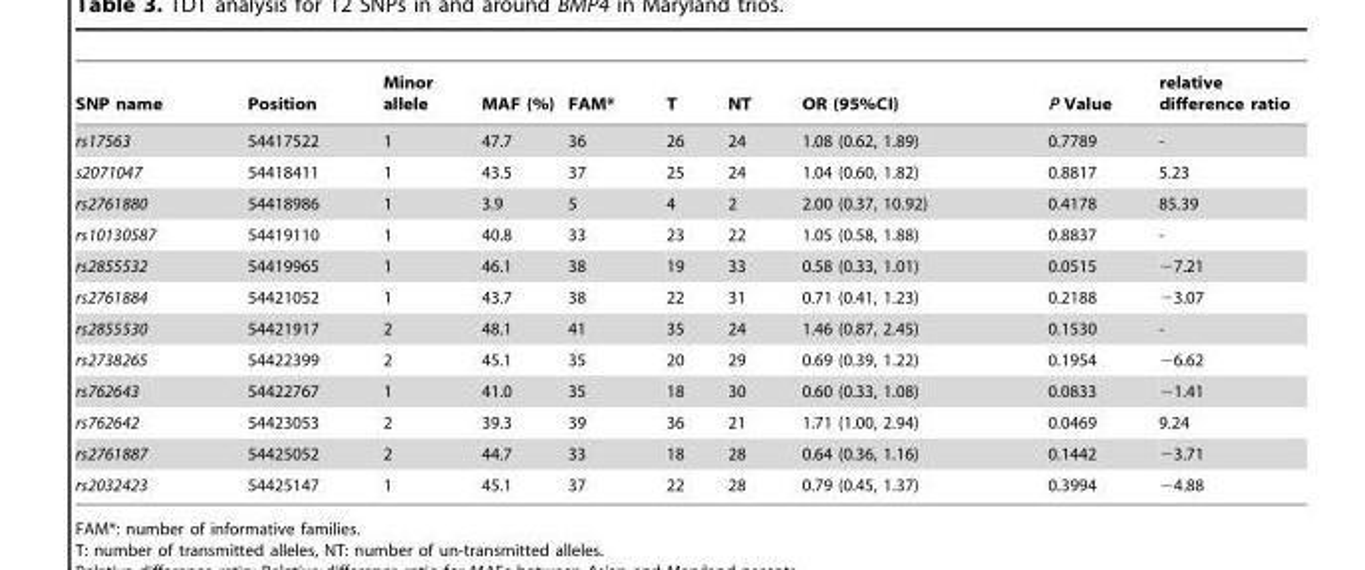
<table><thead><tr><td>SNP name</td><td>Position</td><td>Minor allele</td><td>MAF (%)</td><td>FAM*</td><td>T</td><td>NT</td><td>OR (95%CI)</td><td>P Value</td><td>relative difference ratio</td></tr></thead><tbody><tr><td>rs17563</td><td>54417522</td><td>1</td><td>47.7</td><td>36</td><td>26</td><td>24</td><td>1.08 (0.62, 1.89)</td><td>0.7789</td><td>-</td></tr><tr><td>s2071047</td><td>54418411</td><td>1</td><td>43.5</td><td>37</td><td>25</td><td>24</td><td>1.04 (0.60, 1.82)</td><td>0.8817</td><td>5.23</td></tr><tr><td>rs2761880</td><td>54418986</td><td>1</td><td>3.9</td><td>5</td><td>4</td><td>2</td><td>2.00 (0.37, 10.92)</td><td>0.4178</td><td>85.39</td></tr><tr><td>rs10130587</td><td>54419110</td><td>1</td><td>40.8</td><td>33</td><td>23</td><td>22</td><td>1.05 (0.58, 1.88)</td><td>0.8837</td><td>-</td></tr><tr><td>rs2855532</td><td>54419965</td><td>1</td><td>46.1</td><td>38</td><td>19</td><td>33</td><td>0.58 (0.33, 1.01)</td><td>0.0515</td><td>−7.21</td></tr><tr><td>rs2761884</td><td>54421052</td><td>1</td><td>43.7</td><td>38</td><td>22</td><td>31</td><td>0.71 (0.41, 1.23)</td><td>0.2188</td><td>−3.07</td></tr><tr><td>rs2855530</td><td>54421917</td><td>2</td><td>48.1</td><td>41</td><td>35</td><td>24</td><td>1.46 (0.87, 2.45)</td><td>0.1530</td><td>-</td></tr><tr><td>rs2738265</td><td>54422399</td><td>2</td><td>45.1</td><td>35</td><td>20</td><td>29</td><td>0.69 (0.39, 1.22)</td><td>0.1954</td><td>−6.62</td></tr><tr><td>rs762643</td><td>54422767</td><td>1</td><td>41.0</td><td>35</td><td>18</td><td>30</td><td>0.60 (0.33, 1.08)</td><td>0.0833</td><td>−1.41</td></tr><tr><td>rs762642</td><td>54423053</td><td>2</td><td>39.3</td><td>39</td><td>36</td><td>21</td><td>1.71 (1.00, 2.94)</td><td>0.0469</td><td>9.24</td></tr><tr><td>rs2761887</td><td>54425052</td><td>2</td><td>44.7</td><td>33</td><td>18</td><td>28</td><td>0.64 (0.36, 1.16)</td><td>0.1442</td><td>−3.71</td></tr><tr><td>rs2032423</td><td>54425147</td><td>1</td><td>45.1</td><td>37</td><td>22</td><td>28</td><td>0.79 (0.45, 1.37)</td><td>0.3994</td><td>−4.88</td></tr></tbody></table>